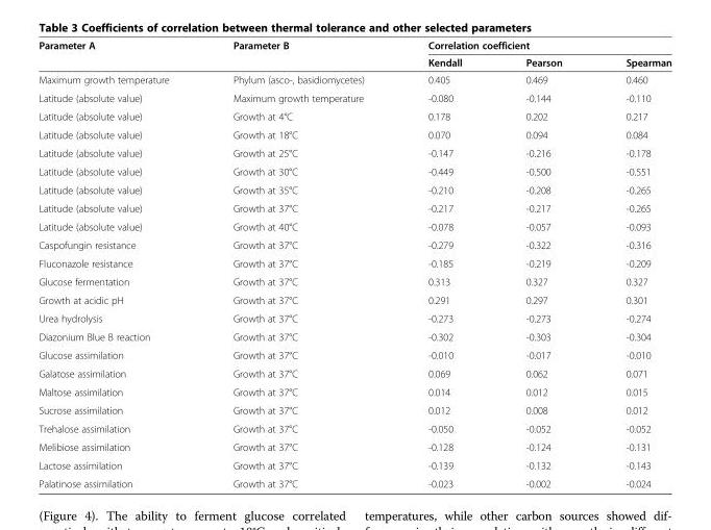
<table><thead><tr><td rowspan="2">Parameter A</td><td rowspan="2">Parameter B</td><td colspan="3">Correlation coefficient</td></tr><tr><td>Kendall</td><td>Pearson</td><td>Spearman</td></tr></thead><tbody><tr><td>Maximum growth temperature</td><td>Phylum (asco-, basidiomycetes)</td><td>0.405</td><td>0.469</td><td>0.460</td></tr><tr><td>Latitude (absolute value)</td><td>Maximum growth temperature</td><td>-0.080</td><td>-0.144</td><td>-0.110</td></tr><tr><td>Latitude (absolute value)</td><td>Growth at 4°C</td><td>0.178</td><td>0.202</td><td>0.217</td></tr><tr><td>Latitude (absolute value)</td><td>Growth at 18°C</td><td>0.070</td><td>0.094</td><td>0.084</td></tr><tr><td>Latitude (absolute value)</td><td>Growth at 25°C</td><td>-0.147</td><td>-0.216</td><td>-0.178</td></tr><tr><td>Latitude (absolute value)</td><td>Growth at 30°C</td><td>-0.449</td><td>-0.500</td><td>-0.551</td></tr><tr><td>Latitude (absolute value)</td><td>Growth at 35°C</td><td>-0.210</td><td>-0.208</td><td>-0.265</td></tr><tr><td>Latitude (absolute value)</td><td>Growth at 37°C</td><td>-0.217</td><td>-0.217</td><td>-0.265</td></tr><tr><td>Latitude (absolute value)</td><td>Growth at 40°C</td><td>-0.078</td><td>-0.057</td><td>-0.093</td></tr><tr><td>Caspofungin resistance</td><td>Growth at 37°C</td><td>-0.279</td><td>-0.322</td><td>-0.316</td></tr><tr><td>Fluconazole resistance</td><td>Growth at 37°C</td><td>-0.185</td><td>-0.219</td><td>-0.209</td></tr><tr><td>Glucose fermentation</td><td>Growth at 37°C</td><td>0.313</td><td>0.327</td><td>0.327</td></tr><tr><td>Growth at acidic pH</td><td>Growth at 37°C</td><td>0.291</td><td>0.297</td><td>0.301</td></tr><tr><td>Urea hydrolysis</td><td>Growth at 37°C</td><td>-0.273</td><td>-0.273</td><td>-0.274</td></tr><tr><td>Diazonium Blue B reaction</td><td>Growth at 37°C</td><td>-0.302</td><td>-0.303</td><td>-0.304</td></tr><tr><td>Glucose assimilation</td><td>Growth at 37°C</td><td>-0.010</td><td>-0.017</td><td>-0.010</td></tr><tr><td>Galatose assimilation</td><td>Growth at 37°C</td><td>0.069</td><td>0.062</td><td>0.071</td></tr><tr><td>Maltose assimilation</td><td>Growth at 37°C</td><td>0.014</td><td>0.012</td><td>0.015</td></tr><tr><td>Sucrose assimilation</td><td>Growth at 37°C</td><td>0.012</td><td>0.008</td><td>0.012</td></tr><tr><td>Trehalose assimilation</td><td>Growth at 37°C</td><td>-0.050</td><td>-0.052</td><td>-0.052</td></tr><tr><td>Melibiose assimilation</td><td>Growth at 37°C</td><td>-0.128</td><td>-0.124</td><td>-0.131</td></tr><tr><td>Lactose assimilation</td><td>Growth at 37°C</td><td>-0.139</td><td>-0.132</td><td>-0.143</td></tr><tr><td>Palatinose assimilation</td><td>Growth at 37°C</td><td>-0.023</td><td>-0.002</td><td>-0.024</td></tr></tbody></table>